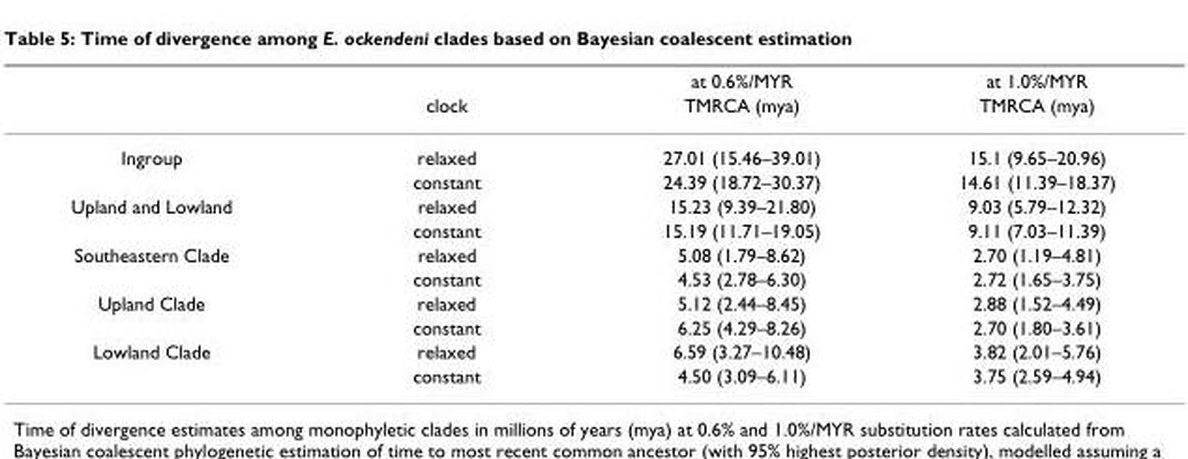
<table><thead><tr><td rowspan="2"></td><td rowspan="2">clock</td><td rowspan="2">at 0.6%/MYR TMRCA (mya)</td><td rowspan="2">at 1.0%/MYR TMRCA (mya)</td></tr><tr></tr></thead><tbody><tr><td rowspan="2">Ingroup</td><td>relaxed</td><td>27.01 (15.46–39.01)</td><td>15.1 (9.65–20.96)</td></tr><tr><td>constant</td><td>24.39 (18.72–30.37)</td><td>14.61 (11.39–18.37)</td></tr><tr><td rowspan="2">Upland and Lowland</td><td>relaxed</td><td>15.23 (9.39–21.80)</td><td>9.03 (5.79–12.32)</td></tr><tr><td>constant</td><td>15.19 (11.71–19.05)</td><td>9.11 (7.03–11.39)</td></tr><tr><td rowspan="2">Southeastern Clade</td><td>relaxed</td><td>5.08 (1.79–8.62)</td><td>2.70 (1.19–4.81)</td></tr><tr><td>constant</td><td>4.53 (2.78–6.30)</td><td>2.72 (1.65–3.75)</td></tr><tr><td rowspan="2">Upland Clade</td><td>relaxed</td><td>5.12 (2.44–8.45)</td><td>2.88 (1.52–4.49)</td></tr><tr><td>constant</td><td>6.25 (4.29–8.26)</td><td>2.70 (1.80–3.61)</td></tr><tr><td rowspan="2">Lowland Clade</td><td>relaxed</td><td>6.59 (3.27–10.48)</td><td>3.82 (2.01–5.76)</td></tr><tr><td>constant</td><td>4.50 (3.09–6.11)</td><td>3.75 (2.59–4.94)</td></tr></tbody></table>